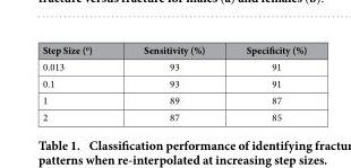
<table><thead><tr><td>Step Size (<sup>o</sup>)</td><td>Sensitivity (%)</td><td>Specificity (%)</td></tr></thead><tbody><tr><td>0.013</td><td>93</td><td>91</td></tr><tr><td>0.1</td><td>93</td><td>91</td></tr><tr><td>1</td><td>89</td><td>87</td></tr><tr><td>2</td><td>87</td><td>85</td></tr></tbody></table>